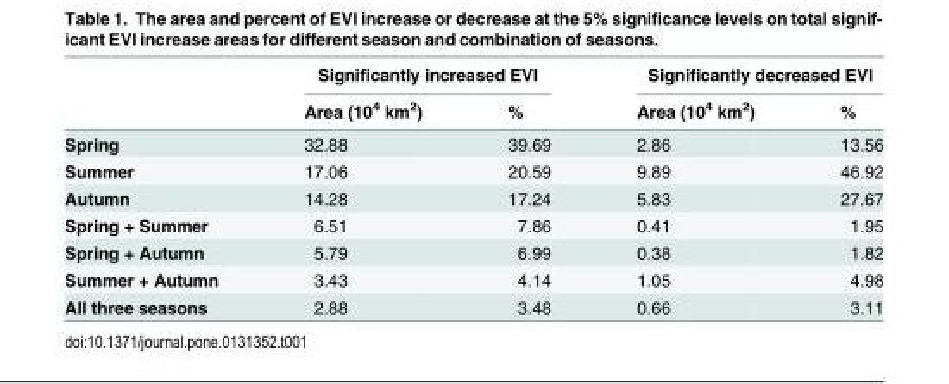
<table><thead><tr><td rowspan="2"></td><td colspan="2">Significantly increased EVI</td><td colspan="2">Significantly decreased EVI</td></tr><tr><td>Area (10<sup>4</sup> km<sup>2</sup>)</td><td>%</td><td>Area (10<sup>4</sup> km<sup>2</sup>)</td><td>%</td></tr></thead><tbody><tr><td>Spring</td><td>32.88</td><td>39.69</td><td>2.86</td><td>13.56</td></tr><tr><td>Summer</td><td>17.06</td><td>20.59</td><td>9.89</td><td>46.92</td></tr><tr><td>Autumn</td><td>14.28</td><td>17.24</td><td>5.83</td><td>27.67</td></tr><tr><td>Spring + Summer</td><td>6.51</td><td>7.86</td><td>0.41</td><td>1.95</td></tr><tr><td>Spring + Autumn</td><td>5.79</td><td>6.99</td><td>0.38</td><td>1.82</td></tr><tr><td>Summer + Autumn</td><td>3.43</td><td>4.14</td><td>1.05</td><td>4.98</td></tr><tr><td>All three seasons</td><td>2.88</td><td>3.48</td><td>0.66</td><td>3.11</td></tr></tbody></table>